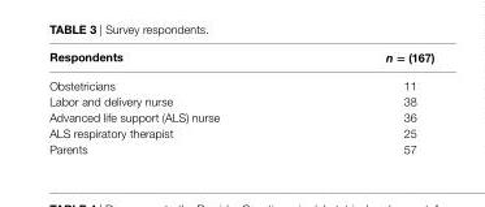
<table><thead><tr><td>respondents</td><td>n = (167)</td></tr></thead><tbody><tr><td>Obstetricians</td><td>11</td></tr><tr><td>Labor and delivery nurse</td><td>38</td></tr><tr><td>Advanced life support (ALS) nurse</td><td>36</td></tr><tr><td>ALS respiratory therapist</td><td>25</td></tr><tr><td>Parents</td><td>57</td></tr></tbody></table>